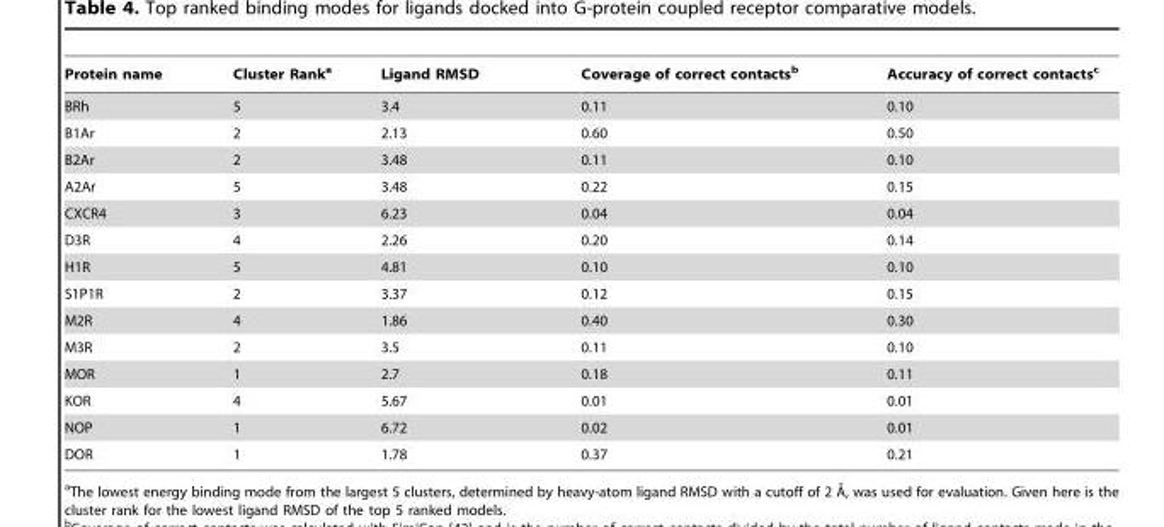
<table><thead><tr><td>Protein name</td><td>Cluster Rank<sup>a</sup></td><td>Ligand RMSD</td><td>Coverage of correct contacts<sup>b</sup></td><td>Accuracy of correct contacts<sup>c</sup></td></tr></thead><tbody><tr><td>BRh</td><td>5</td><td>3.4</td><td>0.11</td><td>0.10</td></tr><tr><td>B1Ar</td><td>2</td><td>2.13</td><td>0.60</td><td>0.50</td></tr><tr><td>B2Ar</td><td>2</td><td>3.48</td><td>0.11</td><td>0.10</td></tr><tr><td>A2Ar</td><td>5</td><td>3.48</td><td>0.22</td><td>0.15</td></tr><tr><td>CXCR4</td><td>3</td><td>6.23</td><td>0.04</td><td>0.04</td></tr><tr><td>D3R</td><td>4</td><td>2.26</td><td>0.20</td><td>0.14</td></tr><tr><td>H1R</td><td>5</td><td>4.81</td><td>0.10</td><td>0.10</td></tr><tr><td>S1P1R</td><td>2</td><td>3.37</td><td>0.12</td><td>0.15</td></tr><tr><td>M2R</td><td>4</td><td>1.86</td><td>0.40</td><td>0.30</td></tr><tr><td>M3R</td><td>2</td><td>3.5</td><td>0.11</td><td>0.10</td></tr><tr><td>MOR</td><td>1</td><td>2.7</td><td>0.18</td><td>0.11</td></tr><tr><td>KOR</td><td>4</td><td>5.67</td><td>0.01</td><td>0.01</td></tr><tr><td>NOP</td><td>1</td><td>6.72</td><td>0.02</td><td>0.01</td></tr><tr><td>DOR</td><td>1</td><td>1.78</td><td>0.37</td><td>0.21</td></tr></tbody></table>